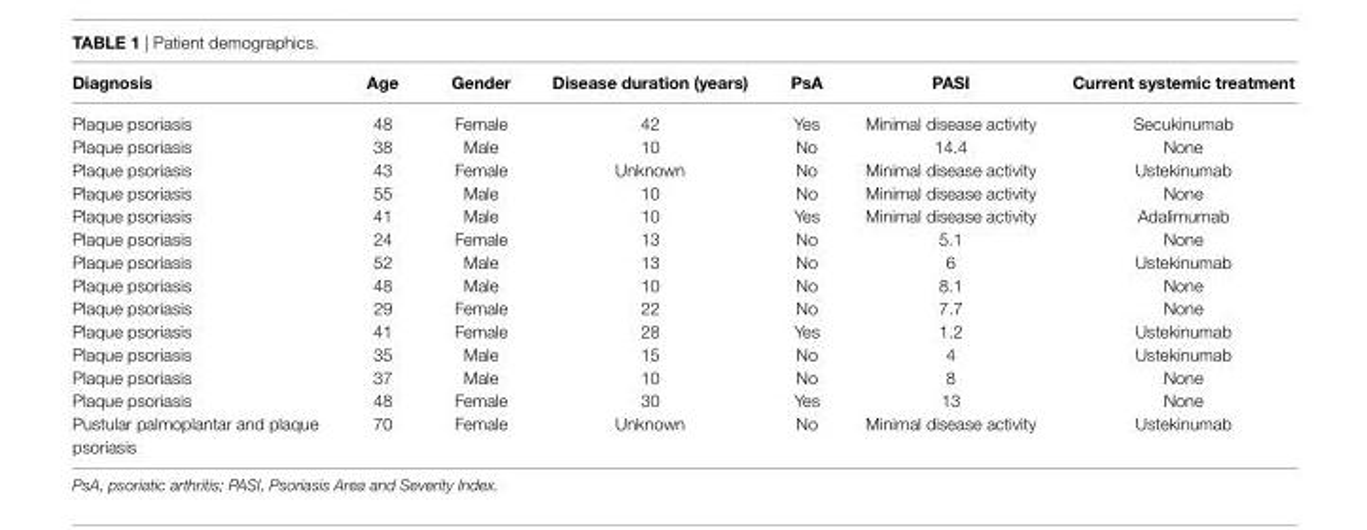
<table><thead><tr><td>Diagnosis</td><td>age</td><td>gender</td><td>Disease duration (years)</td><td>Psa</td><td>Pasi</td><td>current systemic treatment</td></tr></thead><tbody><tr><td>Plaque psoriasis</td><td>48</td><td>Female</td><td>42</td><td>Yes</td><td>Minimal disease activity</td><td>Secukinumab</td></tr><tr><td>Plaque psoriasis</td><td>38</td><td>Male</td><td>10</td><td>No</td><td>14.4</td><td>None</td></tr><tr><td>Plaque psoriasis</td><td>43</td><td>Female</td><td>Unknown</td><td>No</td><td>Minimal disease activity</td><td>Ustekinumab</td></tr><tr><td>Plaque psoriasis</td><td>55</td><td>Male</td><td>10</td><td>No</td><td>Minimal disease activity</td><td>None</td></tr><tr><td>Plaque psoriasis</td><td>41</td><td>Male</td><td>10</td><td>Yes</td><td>Minimal disease activity</td><td>Adalimumab</td></tr><tr><td>Plaque psoriasis</td><td>24</td><td>Female</td><td>13</td><td>No</td><td>5.1</td><td>None</td></tr><tr><td>Plaque psoriasis</td><td>52</td><td>Male</td><td>13</td><td>No</td><td>6</td><td>Ustekinumab</td></tr><tr><td>Plaque psoriasis</td><td>48</td><td>Male</td><td>10</td><td>No</td><td>8.1</td><td>None</td></tr><tr><td>Plaque psoriasis</td><td>29</td><td>Female</td><td>22</td><td>No</td><td>7.7</td><td>None</td></tr><tr><td>Plaque psoriasis</td><td>41</td><td>Female</td><td>28</td><td>Yes</td><td>1.2</td><td>Ustekinumab</td></tr><tr><td>Plaque psoriasis</td><td>35</td><td>Male</td><td>15</td><td>No</td><td>4</td><td>Ustekinumab</td></tr><tr><td>Plaque psoriasis</td><td>37</td><td>Male</td><td>10</td><td>No</td><td>8</td><td>None</td></tr><tr><td>Plaque psoriasis</td><td>48</td><td>Female</td><td>30</td><td>Yes</td><td>13</td><td>None</td></tr><tr><td>Pustular palmoplantar and plaque psoriasis</td><td>70</td><td>Female</td><td>Unknown</td><td>No</td><td>Minimal disease activity</td><td>Ustekinumab</td></tr></tbody></table>